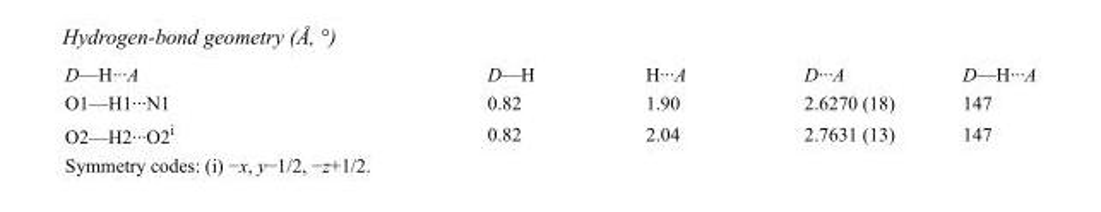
<table><tbody><tr><td>D—H···A</td><td>D—H</td><td>H···A</td><td>D···A</td><td>D—H···A</td></tr><tr><td>O1—H1···N1</td><td>0.82</td><td>1.90</td><td>2.6270 (18)</td><td>147</td></tr><tr><td>O2—H2···O2<sup>i</sup></td><td>0.82</td><td>2.04</td><td>2.7631 (13)</td><td>147</td></tr></tbody></table>